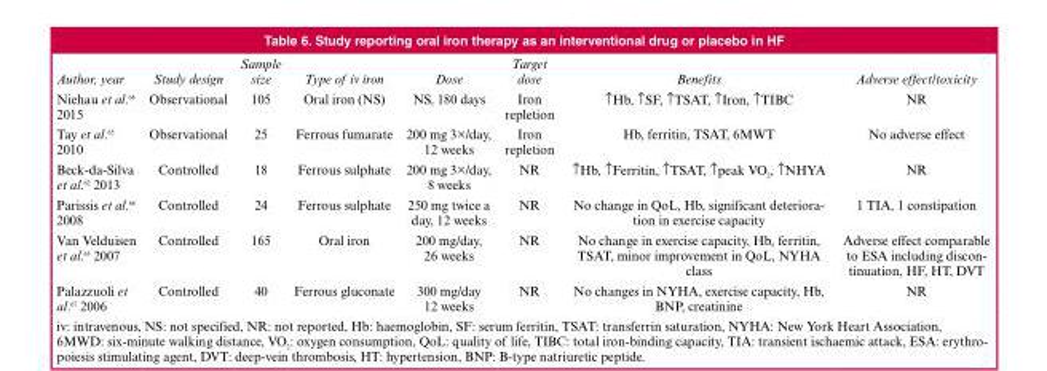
<table><thead><tr><td>Author, year</td><td>Study design</td><td>Sample size</td><td>Type of iv iron</td><td>Dose</td><td>Target dose</td><td>Benefits</td><td>Adverse effect/toxicity</td></tr></thead><tbody><tr><td>Niehau et al.<sup>64</sup> 2015</td><td>Observational</td><td>105</td><td>Oral iron (NS)</td><td>NS, 180 days</td><td>Iron repletion</td><td>↑Hb, ↑SF, ↑TSAT, ↑Iron, ↑TIBC</td><td>NR</td></tr><tr><td>Tay et al.<sup>65</sup> 2010</td><td>Observational</td><td>25</td><td>Ferrous fumarate</td><td>200 mg 3×/day, 12 weeks</td><td>Iron repletion</td><td>Hb, ferritin, TSAT, 6MWT</td><td>No adverse effect</td></tr><tr><td>Beck-da-Silva et al.<sup>62</sup> 2013</td><td>Controlled</td><td>18</td><td>Ferrous sulphate</td><td>200 mg 3×/day, 8 weeks</td><td>NR</td><td>↑Hb, ↑Ferritin, ↑TSAT, ↑peak VO2, ↑NHYA</td><td>NR</td></tr><tr><td>Parissis et al.<sup>66</sup> 2008</td><td>Controlled</td><td>24</td><td>Ferrous sulphate</td><td>250 mg twice a day, 12 weeks</td><td>NR</td><td>No change in QoL, Hb, significant deteriora- tion in exercise capacity</td><td>1 TIA, 1 constipation</td></tr><tr><td>Van Velduisen et al.<sup>63</sup> 2007</td><td>Controlled</td><td>165</td><td>Oral iron</td><td>200 mg/day, 26 weeks</td><td>NR</td><td>No change in exercise capacity, Hb, ferritin, TSAT, minor improvement in QoL, NYHA class</td><td>Adverse effect comparable to ESA including discon- tinuation, HF, HT, DVT</td></tr><tr><td>Palazzuoli et al.<sup>67</sup> 2006</td><td>Controlled</td><td>40</td><td>Ferrous gluconate</td><td>300 mg/day 12 weeks</td><td>NR</td><td>No changes in NYHA, exercise capacity, Hb, BNP, creatinine</td><td>NR</td></tr></tbody></table>